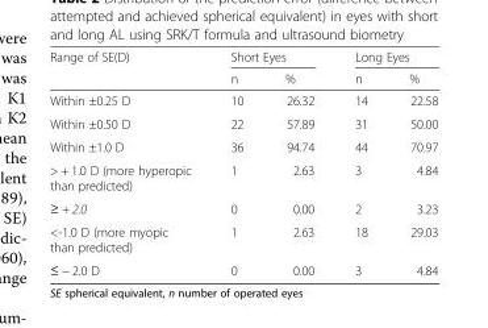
<table><thead><tr><td rowspan="2">Range of SE(D)</td><td colspan="2">Short Eyes</td><td colspan="2">Long Eyes</td></tr><tr><td>n</td><td>%</td><td>n</td><td>%</td></tr></thead><tbody><tr><td>Within ±0.25 D</td><td>10</td><td>26.32</td><td>14</td><td>22.58</td></tr><tr><td>Within ±0.50 D</td><td>22</td><td>57.89</td><td>31</td><td>50.00</td></tr><tr><td>Within ±1.0 D</td><td>36</td><td>94.74</td><td>44</td><td>70.97</td></tr><tr><td>&gt; + 1.0 D (more hyperopic than predicted)</td><td>1</td><td>2.63</td><td>3</td><td>4.84</td></tr><tr><td>≥ + 2.0</td><td>0</td><td>0.00</td><td>2</td><td>3.23</td></tr><tr><td>&lt;-1.0 D (more myopic than predicted)</td><td>1</td><td>2.63</td><td>18</td><td>29.03</td></tr><tr><td>≤ − 2.0 D</td><td>0</td><td>0.00</td><td>3</td><td>4.84</td></tr></tbody></table>